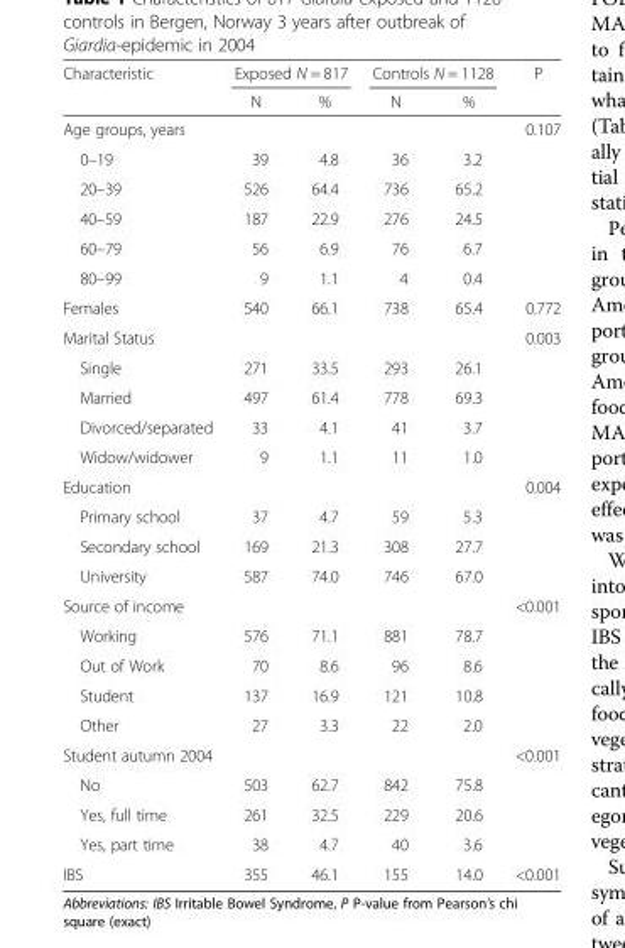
<table><thead><tr><td rowspan="2">Characteristic</td><td colspan="2">Exposed N = 817</td><td colspan="2">Controls N = 1128</td><td rowspan="2">P</td></tr><tr><td>N</td><td>%</td><td>N</td><td>%</td></tr></thead><tbody><tr><td>Age groups, years</td><td></td><td></td><td></td><td></td><td>0.107</td></tr><tr><td>0–19</td><td>39</td><td>4.8</td><td>36</td><td>3.2</td><td></td></tr><tr><td>20–39</td><td>526</td><td>64.4</td><td>736</td><td>65.2</td><td></td></tr><tr><td>40–59</td><td>187</td><td>22.9</td><td>276</td><td>24.5</td><td></td></tr><tr><td>60–79</td><td>56</td><td>6.9</td><td>76</td><td>6.7</td><td></td></tr><tr><td>80–99</td><td>9</td><td>1.1</td><td>4</td><td>0.4</td><td></td></tr><tr><td>Females</td><td>540</td><td>66.1</td><td>738</td><td>65.4</td><td>0.772</td></tr><tr><td>Marital Status</td><td></td><td></td><td></td><td></td><td>0.003</td></tr><tr><td>Single</td><td>271</td><td>33.5</td><td>293</td><td>26.1</td><td></td></tr><tr><td>Married</td><td>497</td><td>61.4</td><td>778</td><td>69.3</td><td></td></tr><tr><td>Divorced/separated</td><td>33</td><td>4.1</td><td>41</td><td>3.7</td><td></td></tr><tr><td>Widow/widower</td><td>9</td><td>1.1</td><td>11</td><td>1.0</td><td></td></tr><tr><td>Education</td><td></td><td></td><td></td><td></td><td>0.004</td></tr><tr><td>Primary school</td><td>37</td><td>4.7</td><td>59</td><td>5.3</td><td></td></tr><tr><td>Secondary school</td><td>169</td><td>21.3</td><td>308</td><td>27.7</td><td></td></tr><tr><td>University</td><td>587</td><td>74.0</td><td>746</td><td>67.0</td><td></td></tr><tr><td>Source of income</td><td></td><td></td><td></td><td></td><td>&lt;0.001</td></tr><tr><td>Working</td><td>576</td><td>71.1</td><td>881</td><td>78.7</td><td></td></tr><tr><td>Out of Work</td><td>70</td><td>8.6</td><td>96</td><td>8.6</td><td></td></tr><tr><td>Student</td><td>137</td><td>16.9</td><td>121</td><td>10.8</td><td></td></tr><tr><td>Other</td><td>27</td><td>3.3</td><td>22</td><td>2.0</td><td></td></tr><tr><td>Student autumn 2004</td><td></td><td></td><td></td><td></td><td>&lt;0.001</td></tr><tr><td>No</td><td>503</td><td>62.7</td><td>842</td><td>75.8</td><td></td></tr><tr><td>Yes, full time</td><td>261</td><td>32.5</td><td>229</td><td>20.6</td><td></td></tr><tr><td>Yes, part time</td><td>38</td><td>4.7</td><td>40</td><td>3.6</td><td></td></tr><tr><td>IBS</td><td>355</td><td>46.1</td><td>155</td><td>14.0</td><td>&lt;0.001</td></tr></tbody></table>